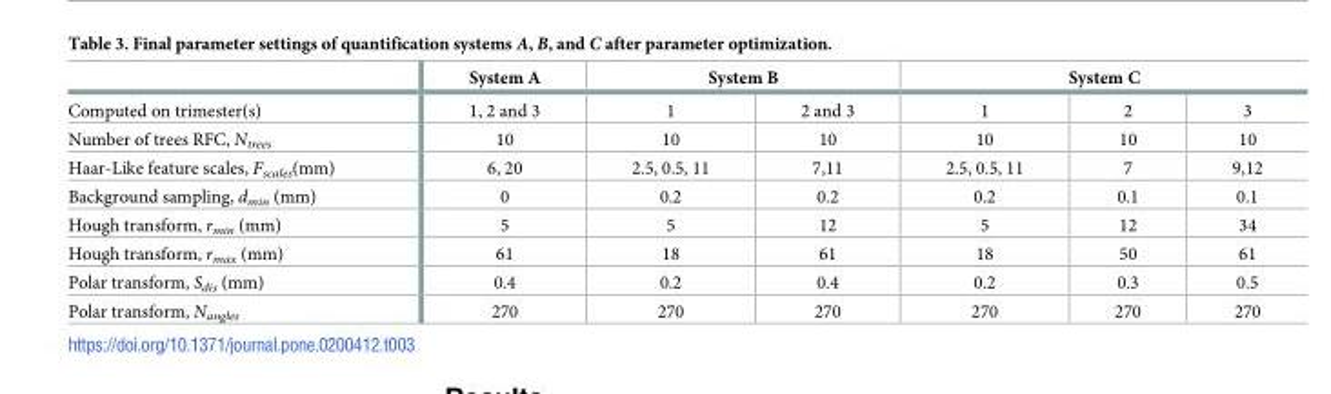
<table><thead><tr><td rowspan="2">Computed on trimester(s)</td><td rowspan="2">System A 1, 2 and 3</td><td colspan="2">System B</td><td colspan="3">System C</td></tr><tr><td>1</td><td>2 and 3</td><td>1</td><td>2</td><td>3</td></tr></thead><tbody><tr><td>Number of trees RFC, N<sub>trees</sub></td><td>10</td><td>10</td><td>10</td><td>10</td><td>10</td><td>10</td></tr><tr><td>Haar-Like feature scales, F<sub>scales</sub>(mm)</td><td>6, 20</td><td>2.5, 0.5, 11</td><td>7,11</td><td>2.5, 0.5, 11</td><td>7</td><td>9,12</td></tr><tr><td>Background sampling, d<sub>min</sub> (mm)</td><td>0</td><td>0.2</td><td>0.2</td><td>0.2</td><td>0.1</td><td>0.1</td></tr><tr><td>Hough transform, r<sub>min</sub> (mm)</td><td>5</td><td>5</td><td>12</td><td>5</td><td>12</td><td>34</td></tr><tr><td>Hough transform, r<sub>max</sub> (mm)</td><td>61</td><td>18</td><td>61</td><td>18</td><td>50</td><td>61</td></tr><tr><td>Polar transform, S<sub>dis</sub> (mm)</td><td>0.4</td><td>0.2</td><td>0.4</td><td>0.2</td><td>0.3</td><td>0.5</td></tr><tr><td>Polar transform, N<sub>angles</sub></td><td>270</td><td>270</td><td>270</td><td>270</td><td>270</td><td>270</td></tr></tbody></table>